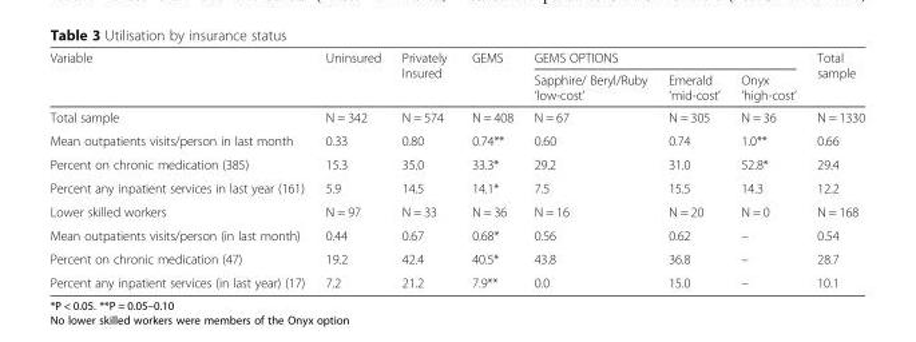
<table><thead><tr><td rowspan="2">Variable</td><td rowspan="2">Uninsured</td><td rowspan="2">Privately Insured</td><td rowspan="2">GEMS</td><td colspan="3">GEMS OPTIONS</td><td rowspan="2">Total sample</td></tr><tr><td>Sapphire/ Beryl/Ruby ‘low-cost’</td><td>Emerald ‘mid-cost’</td><td>Onyx ‘high-cost’</td></tr></thead><tbody><tr><td>Total sample</td><td>N = 342</td><td>N = 574</td><td>N = 408</td><td>N = 67</td><td>N = 305</td><td>N = 36</td><td>N = 1330</td></tr><tr><td>Mean outpatients visits/person in last month</td><td>0.33</td><td>0.80</td><td>0.74**</td><td>0.60</td><td>0.74</td><td>1.0**</td><td>0.66</td></tr><tr><td>Percent on chronic medication (385)</td><td>15.3</td><td>35.0</td><td>33.3*</td><td>29.2</td><td>31.0</td><td>52.8*</td><td>29.4</td></tr><tr><td>Percent any inpatient services in last year (161)</td><td>5.9</td><td>14.5</td><td>14.1*</td><td>7.5</td><td>15.5</td><td>14.3</td><td>12.2</td></tr><tr><td>Lower skilled workers</td><td>N = 97</td><td>N = 33</td><td>N = 36</td><td>N = 16</td><td>N = 20</td><td>N = 0</td><td>N = 168</td></tr><tr><td>Mean outpatients visits/person (in last month)</td><td>0.44</td><td>0.67</td><td>0.68*</td><td>0.56</td><td>0.62</td><td>–</td><td>0.54</td></tr><tr><td>Percent on chronic medication (47)</td><td>19.2</td><td>42.4</td><td>40.5*</td><td>43.8</td><td>36.8</td><td>–</td><td>28.7</td></tr><tr><td>Percent any inpatient services (in last year) (17)</td><td>7.2</td><td>21.2</td><td>7.9**</td><td>0.0</td><td>15.0</td><td>–</td><td>10.1</td></tr></tbody></table>